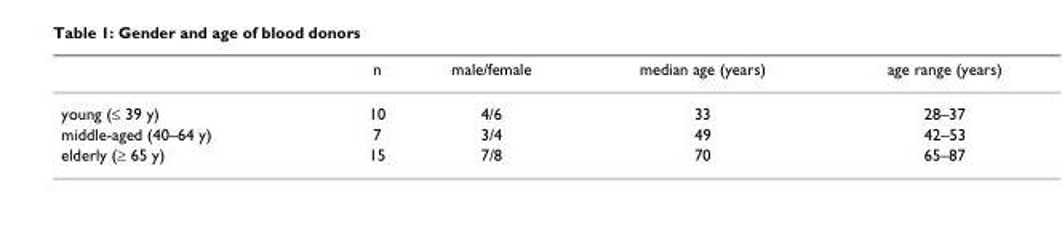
<table><thead><tr><td></td><td>n</td><td>male/female</td><td>median age (years)</td><td>age range (years)</td></tr></thead><tbody><tr><td>young (≤ 39 y)</td><td>10</td><td>4/6</td><td>33</td><td>28–37</td></tr><tr><td>middle-aged (40–64 y)</td><td>7</td><td>3/4</td><td>49</td><td>42–53</td></tr><tr><td>elderly (≥ 65 y)</td><td>15</td><td>7/8</td><td>70</td><td>65–87</td></tr></tbody></table>